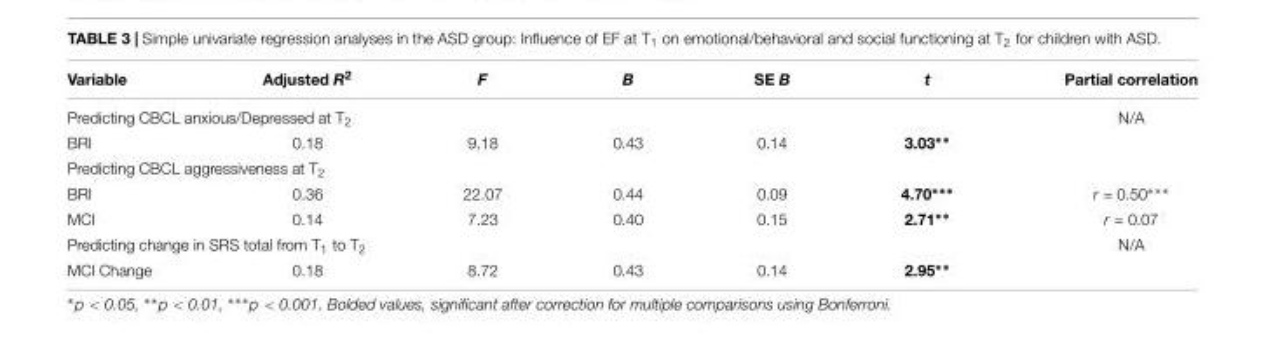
<table><thead><tr><td>Variable</td><td>Adjusted R<sup>2</sup></td><td>F</td><td>B</td><td>SE B</td><td>t</td><td>Partial correlation</td></tr></thead><tbody><tr><td colspan="6">Predicting CBCL anxious/Depressed at T<sub>2</sub></td><td>N/A</td></tr><tr><td>BRI</td><td>0.18</td><td>9.18</td><td>0.43</td><td>0.14</td><td>3.03∗∗</td><td></td></tr><tr><td colspan="7">Predicting CBCL aggressiveness at T<sub>2</sub></td></tr><tr><td>BRI</td><td>0.36</td><td>22.07</td><td>0.44</td><td>0.09</td><td>4.70∗∗∗</td><td>r = 0.50∗∗∗</td></tr><tr><td>MCI</td><td>0.14</td><td>7.23</td><td>0.40</td><td>0.15</td><td>2.71∗∗</td><td>r = 0.07</td></tr><tr><td colspan="6">Predicting change in SRS total from T<sub>1</sub> to T<sub>2</sub></td><td>N/A</td></tr><tr><td>MCI Change</td><td>0.18</td><td>8.72</td><td>0.43</td><td>0.14</td><td>2.95∗∗</td><td></td></tr></tbody></table>